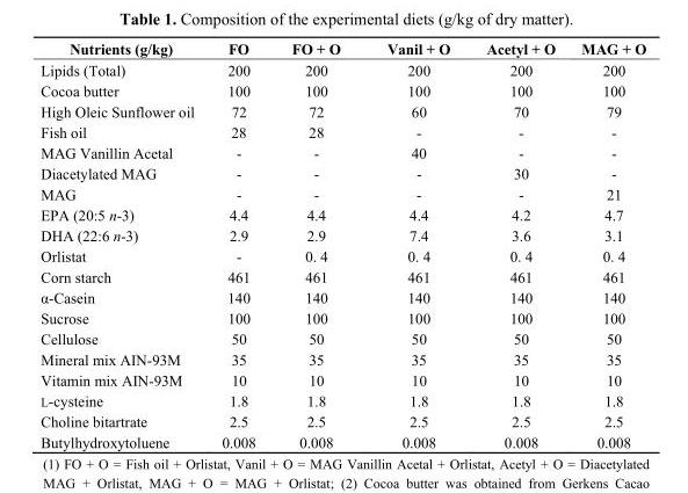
<table><thead><tr><td>Nutrients (g/kg)</td><td>FO</td><td>FO + O</td><td>Vanil + O</td><td>Acetyl + O</td><td>MAG + O</td></tr></thead><tbody><tr><td>Lipids (Total)</td><td>200</td><td>200</td><td>200</td><td>200</td><td>200</td></tr><tr><td>Cocoa butter</td><td>100</td><td>100</td><td>100</td><td>100</td><td>100</td></tr><tr><td>High Oleic Sunflower oil</td><td>72</td><td>72</td><td>60</td><td>70</td><td>79</td></tr><tr><td>Fish oil</td><td>28</td><td>28</td><td>-</td><td>-</td><td>-</td></tr><tr><td>MAG Vanillin Acetal</td><td>-</td><td>-</td><td>40</td><td>-</td><td>-</td></tr><tr><td>Diacetylated MAG</td><td>-</td><td>-</td><td>-</td><td>30</td><td>-</td></tr><tr><td>MAG</td><td>-</td><td>-</td><td>-</td><td>-</td><td>21</td></tr><tr><td>EPA (20:5 n-3)</td><td>4.4</td><td>4.4</td><td>4.4</td><td>4.2</td><td>4.7</td></tr><tr><td>DHA (22:6 n-3)</td><td>2.9</td><td>2.9</td><td>7.4</td><td>3.6</td><td>3.1</td></tr><tr><td>Orlistat</td><td>-</td><td>0. 4</td><td>0. 4</td><td>0. 4</td><td>0. 4</td></tr><tr><td>Corn starch</td><td>461</td><td>461</td><td>461</td><td>461</td><td>461</td></tr><tr><td>α-Casein</td><td>140</td><td>140</td><td>140</td><td>140</td><td>140</td></tr><tr><td>Sucrose</td><td>100</td><td>100</td><td>100</td><td>100</td><td>100</td></tr><tr><td>Cellulose</td><td>50</td><td>50</td><td>50</td><td>50</td><td>50</td></tr><tr><td>Mineral mix AIN-93M</td><td>35</td><td>35</td><td>35</td><td>35</td><td>35</td></tr><tr><td>Vitamin mix AIN-93M</td><td>10</td><td>10</td><td>10</td><td>10</td><td>10</td></tr><tr><td>L-cysteine</td><td>1.8</td><td>1.8</td><td>1.8</td><td>1.8</td><td>1.8</td></tr><tr><td>Choline bitartrate</td><td>2.5</td><td>2.5</td><td>2.5</td><td>2.5</td><td>2.5</td></tr><tr><td>Butylhydroxytoluene</td><td>0.008</td><td>0.008</td><td>0.008</td><td>0.008</td><td>0.008</td></tr></tbody></table>